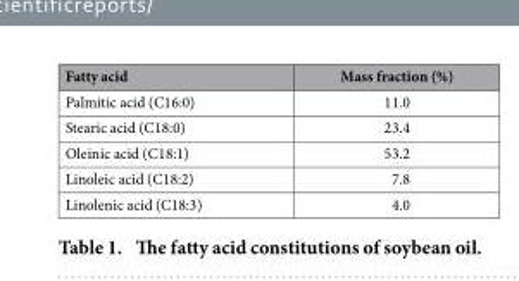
<table><thead><tr><td>Fatty acid</td><td>Mass fraction (%)</td></tr></thead><tbody><tr><td>Palmitic acid (C16:0)</td><td>11.0</td></tr><tr><td>Stearic acid (C18:0)</td><td>23.4</td></tr><tr><td>Oleinic acid (C18:1)</td><td>53.2</td></tr><tr><td>Linoleic acid (C18:2)</td><td>7.8</td></tr><tr><td>Linolenic acid (C18:3)</td><td>4.0</td></tr></tbody></table>